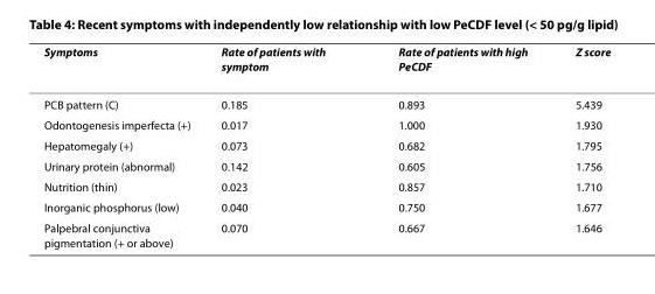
<table><thead><tr><td>Symptoms</td><td>Rate of patients with symptom</td><td>Rate of patients with high PeCDF</td><td>Z score</td></tr></thead><tbody><tr><td>PCB pattern (C)</td><td>0.185</td><td>0.893</td><td>5.439</td></tr><tr><td>Odontogenesis imperfecta (+)</td><td>0.017</td><td>1.000</td><td>1.930</td></tr><tr><td>Hepatomegaly (+)</td><td>0.073</td><td>0.682</td><td>1.795</td></tr><tr><td>Urinary protein (abnormal)</td><td>0.142</td><td>0.605</td><td>1.756</td></tr><tr><td>Nutrition (thin)</td><td>0.023</td><td>0.857</td><td>1.710</td></tr><tr><td>Inorganic phosphorus (low)</td><td>0.040</td><td>0.750</td><td>1.677</td></tr><tr><td>Palpebral conjunctiva pigmentation (+ or above)</td><td>0.070</td><td>0.667</td><td>1.646</td></tr></tbody></table>